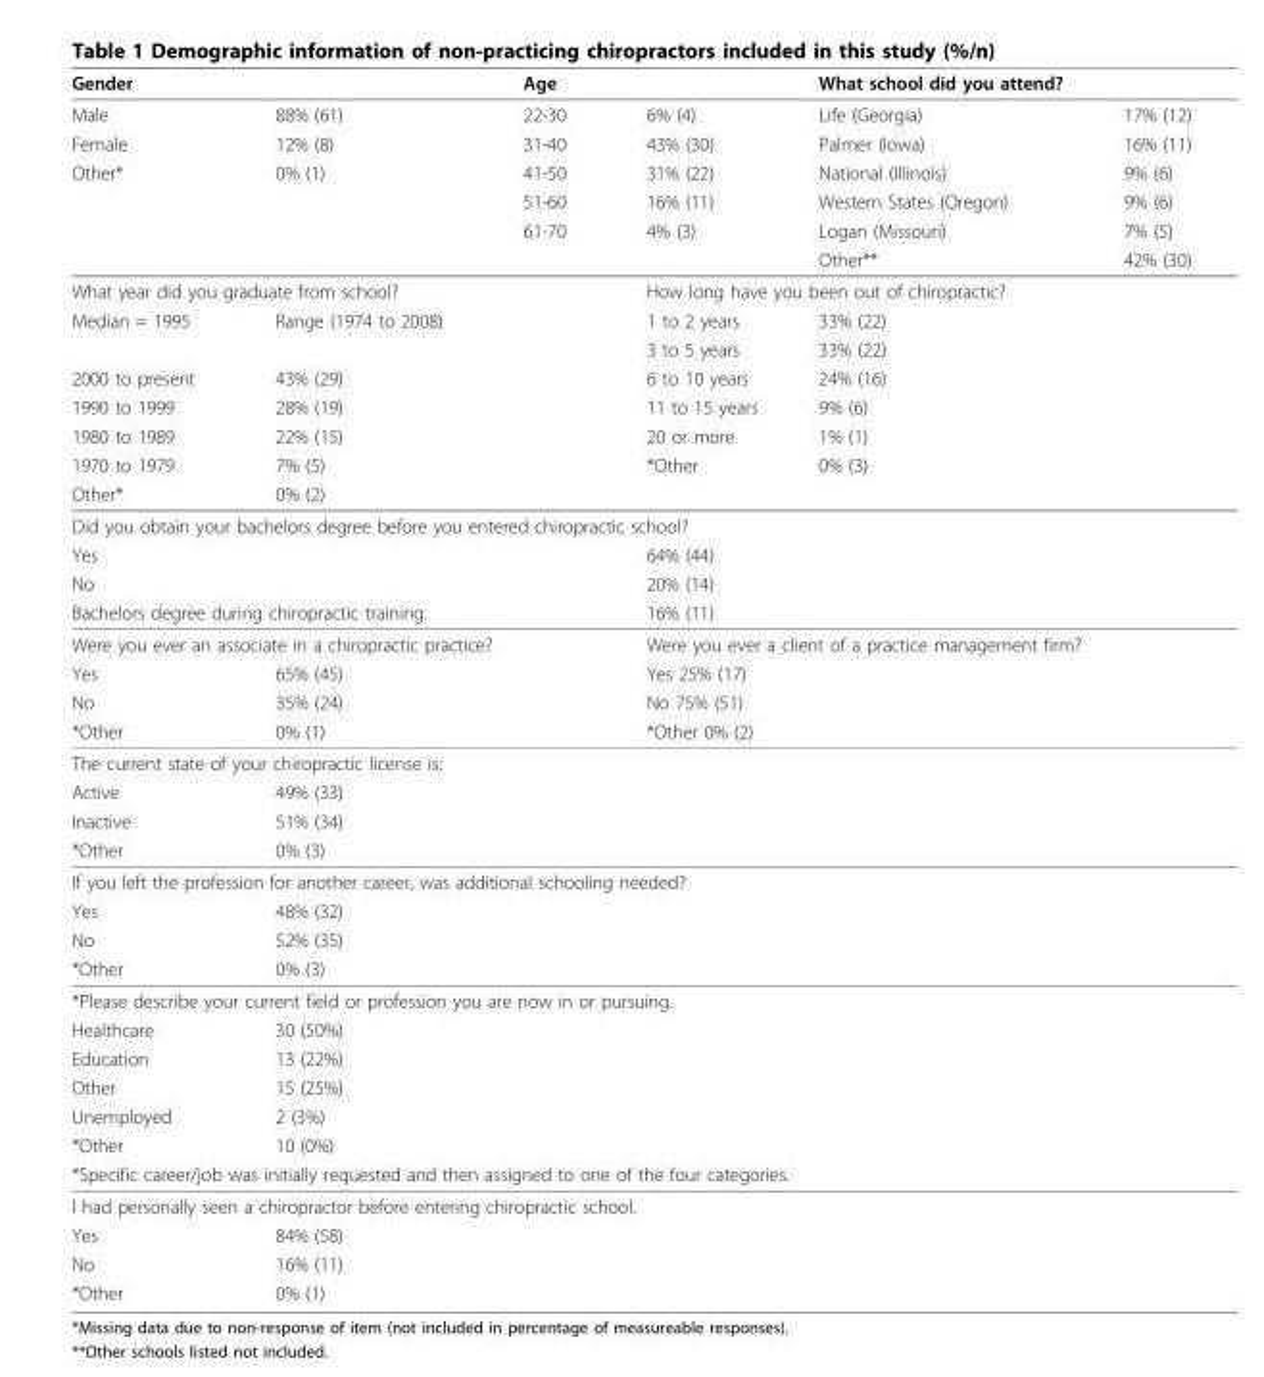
<table><thead><tr><td>Gender</td><td></td><td>Age</td><td></td><td>What school did you attend?</td><td></td></tr></thead><tbody><tr><td>Male</td><td>88% (61)</td><td>22-30</td><td>6% (4)</td><td>Life (Georgia)</td><td>17% (12)</td></tr><tr><td>Female</td><td>12% (8)</td><td>31-40</td><td>43% (30)</td><td>Palmer (Iowa)</td><td>16% (11)</td></tr><tr><td rowspan="4">Other*</td><td>0% (1)</td><td>41-50</td><td>31% (22)</td><td>National (Illinois)</td><td>9% (6)</td></tr><tr><td></td><td>51-60</td><td>16% (11)</td><td>Western States (Oregon)</td><td>9% (6)</td></tr><tr><td></td><td>61-70</td><td>4% (3)</td><td>Logan (Missouri)</td><td>7% (5)</td></tr><tr><td></td><td></td><td></td><td>Other**</td><td>42% (30)</td></tr><tr><td colspan="3">What year did you graduate from school?</td><td colspan="3">How long have you been out of chiropractic?</td></tr><tr><td rowspan="2">Median = 1995</td><td>Range (1974 to 2008)</td><td></td><td>1 to 2 years</td><td>33% (22)</td><td></td></tr><tr><td></td><td></td><td>3 to 5 years</td><td>33% (22)</td><td></td></tr><tr><td>2000 to present</td><td>43% (29)</td><td></td><td>6 to 10 years</td><td>24% (16)</td><td></td></tr><tr><td>1990 to 1999</td><td>28% (19)</td><td></td><td>11 to 15 years</td><td>9% (6)</td><td></td></tr><tr><td>1980 to 1989</td><td>22% (15)</td><td></td><td>20 or more</td><td>1% (1)</td><td></td></tr><tr><td>1970 to 1979</td><td>7% (5)</td><td></td><td>*Other</td><td>0% (3)</td><td></td></tr><tr><td>Other*</td><td>0% (2)</td><td></td><td></td><td></td><td></td></tr><tr><td colspan="6">Did you obtain your bachelors degree before you entered chiropractic school?</td></tr><tr><td>Yes</td><td></td><td></td><td>64% (44)</td><td></td><td></td></tr><tr><td>No</td><td></td><td></td><td>20% (14)</td><td></td><td></td></tr><tr><td colspan="3">Bachelors degree during chiropractic training.</td><td>16% (11)</td><td></td><td></td></tr><tr><td colspan="3">Were you ever an associate in a chiropractic practice?</td><td colspan="3">Were you ever a client of a practice management firm?</td></tr><tr><td>Yes</td><td>65% (45)</td><td></td><td>Yes 25% (17)</td><td></td><td></td></tr><tr><td>No</td><td>35% (24)</td><td></td><td>No 75% (51)</td><td></td><td></td></tr><tr><td>*Other</td><td>0% (1)</td><td></td><td>*Other 0% (2)</td><td></td><td></td></tr><tr><td colspan="6">The current state of your chiropractic license is:</td></tr><tr><td>Active</td><td>49% (33)</td><td></td><td></td><td></td><td></td></tr><tr><td>Inactive</td><td>51% (34)</td><td></td><td></td><td></td><td></td></tr><tr><td>*Other</td><td>0% (3)</td><td></td><td></td><td></td><td></td></tr><tr><td colspan="6">If you left the profession for another career, was additional schooling needed?</td></tr><tr><td>Yes</td><td>48% (32)</td><td></td><td></td><td></td><td></td></tr><tr><td>No</td><td>52% (35)</td><td></td><td></td><td></td><td></td></tr><tr><td>*Other</td><td>0% (3)</td><td></td><td></td><td></td><td></td></tr><tr><td colspan="6">*Please describe your current field or profession you are now in or pursuing.</td></tr><tr><td>Healthcare</td><td>30 (50%)</td><td></td><td></td><td></td><td></td></tr><tr><td>Education</td><td>13 (22%)</td><td></td><td></td><td></td><td></td></tr><tr><td>Other</td><td>15 (25%)</td><td></td><td></td><td></td><td></td></tr><tr><td>Unemployed</td><td>2 (3%)</td><td></td><td></td><td></td><td></td></tr><tr><td>*Other</td><td>10 (0%)</td><td></td><td></td><td></td><td></td></tr><tr><td colspan="6">*Specific career/job was initially requested and then assigned to one of the four categories.</td></tr><tr><td colspan="6">I had personally seen a chiropractor before entering chiropractic school.</td></tr><tr><td>Yes</td><td>84% (58)</td><td></td><td></td><td></td><td></td></tr><tr><td>No</td><td>16% (11)</td><td></td><td></td><td></td><td></td></tr><tr><td>*Other</td><td>0% (1)</td><td></td><td></td><td></td><td></td></tr></tbody></table>